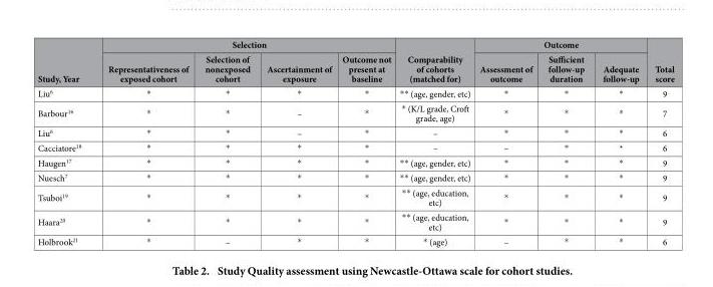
<table><thead><tr><td rowspan="2">Study, Year</td><td colspan="4">Selection</td><td rowspan="2">Comparability of cohorts (matched for)</td><td colspan="3">Outcome</td><td rowspan="2">Total score</td></tr><tr><td>Representativeness of exposed cohort</td><td>Selection of nonexposed cohort</td><td>Ascertainment of exposure</td><td>Outcome not present at baseline</td><td>Assessment of outcome</td><td>Sufficient follow-up duration</td><td>Adequate follow-up</td></tr></thead><tbody><tr><td>Liu<sup>6</sup></td><td>*</td><td>*</td><td>*</td><td>*</td><td>** (age, gender, etc)</td><td>*</td><td>*</td><td>*</td><td>9</td></tr><tr><td>Barbour<sup>16</sup></td><td>*</td><td>*</td><td>–</td><td>*</td><td>* (K/L grade, Croft grade, age)</td><td>*</td><td>*</td><td>*</td><td>7</td></tr><tr><td>Liu<sup>6</sup></td><td>*</td><td>*</td><td>–</td><td>*</td><td>–</td><td>*</td><td>*</td><td>*</td><td>6</td></tr><tr><td>Cacciatore<sup>18</sup></td><td>*</td><td>*</td><td>*</td><td>*</td><td>–</td><td>–</td><td>*</td><td>*</td><td>6</td></tr><tr><td>Haugen<sup>17</sup></td><td>*</td><td>*</td><td>*</td><td>*</td><td>** (age, gender, etc)</td><td>*</td><td>*</td><td>*</td><td>9</td></tr><tr><td>Nuesch<sup>7</sup></td><td>*</td><td>*</td><td>*</td><td>*</td><td>** (age, gender, etc)</td><td>*</td><td>*</td><td>*</td><td>9</td></tr><tr><td>Tsuboi<sup>19</sup></td><td>*</td><td>*</td><td>*</td><td>*</td><td>** (age, education, etc)</td><td>*</td><td>*</td><td>*</td><td>9</td></tr><tr><td>Haara<sup>20</sup></td><td>*</td><td>*</td><td>*</td><td>*</td><td>** (age, education, etc)</td><td>*</td><td>*</td><td>*</td><td>9</td></tr><tr><td>Holbrook<sup>21</sup></td><td>*</td><td>–</td><td>*</td><td>*</td><td>* (age)</td><td>–</td><td>*</td><td>*</td><td>6</td></tr></tbody></table>